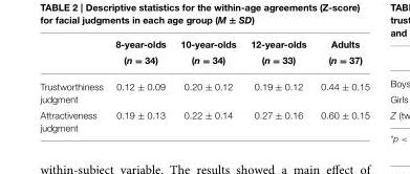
<table><thead><tr><td></td><td>8-year-olds (n = 34)</td><td>10-year-olds (n = 34)</td><td>12-year-olds (n = 33)</td><td>Adults (n = 37)</td></tr></thead><tbody><tr><td>Trustworthiness judgment</td><td>0.12 ± 0.09</td><td>0.20 ± 0.12</td><td>0.19 ± 0.12</td><td>0.44 ± 0.15</td></tr><tr><td>Attractiveness judgment</td><td>0.19 ± 0.13</td><td>0.22 ± 0.14</td><td>0.27 ± 0.16</td><td>0.60 ± 0.15</td></tr></tbody></table>